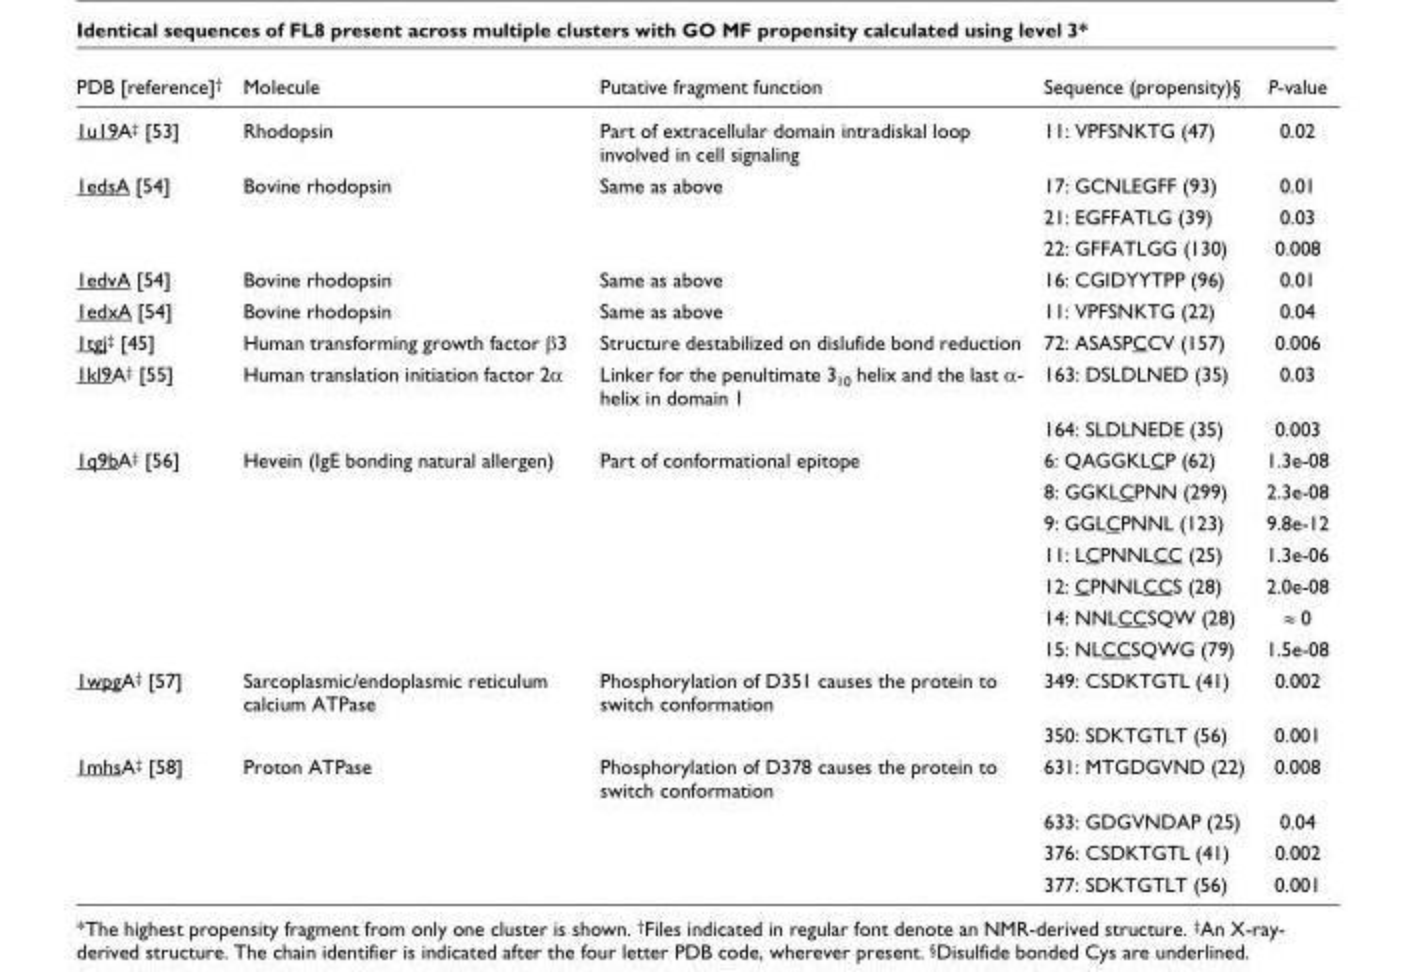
<table><thead><tr><td>PDB [reference]<sup>†</sup></td><td>Molecule</td><td>Putative fragment function</td><td>Sequence (propensity)§</td><td>P-value</td></tr></thead><tbody><tr><td>1u19A<sup>‡</sup> [53]</td><td>Rhodopsin</td><td>Part of extracellular domain intradiskal loop involved in cell signaling</td><td>11: VPFSNKTG (47)</td><td>0.02</td></tr><tr><td rowspan="3">1edsA [54]</td><td>Bovine rhodopsin</td><td>Same as above</td><td>17: GCNLEGFF (93)</td><td>0.01</td></tr><tr><td></td><td></td><td>21: EGFFATLG (39)</td><td>0.03</td></tr><tr><td></td><td></td><td>22: GFFATLGG (130)</td><td>0.008</td></tr><tr><td>1edvA [54]</td><td>Bovine rhodopsin</td><td>Same as above</td><td>16: CGIDYYTPP (96)</td><td>0.01</td></tr><tr><td>1edxA [54]</td><td>Bovine rhodopsin</td><td>Same as above</td><td>11: VPFSNKTG (22)</td><td>0.04</td></tr><tr><td>1tgj<sup>‡</sup> [45]</td><td>Human transforming growth factor β3</td><td>Structure destabilized on dislufide bond reduction</td><td>72: ASASPCCV (157)</td><td>0.006</td></tr><tr><td rowspan="2">1kl9A<sup>‡</sup> [55]</td><td>Human translation initiation factor 2α</td><td>Linker for the penultimate 3<sub>10</sub> helix and the last α- helix in domain 1</td><td>163: DSLDLNED (35)</td><td>0.03</td></tr><tr><td></td><td></td><td>164: SLDLNEDE (35)</td><td>0.003</td></tr><tr><td rowspan="7">1q9bA<sup>‡</sup> [56]</td><td>Hevein (IgE bonding natural allergen)</td><td>Part of conformational epitope</td><td>6: QAGGKLCP (62)</td><td>1.3e-08</td></tr><tr><td></td><td></td><td>8: GGKLCPNN (299)</td><td>2.3e-08</td></tr><tr><td></td><td></td><td>9: GGLCPNNL (123)</td><td>9.8e-12</td></tr><tr><td></td><td></td><td>11: LCPNNLCC (25)</td><td>1.3e-06</td></tr><tr><td></td><td></td><td>12: CPNNLCCS (28)</td><td>2.0e-08</td></tr><tr><td></td><td></td><td>14: NNLCCSQW (28)</td><td>≈ 0</td></tr><tr><td></td><td></td><td>15: NLCCSQWG (79)</td><td>1.5e-08</td></tr><tr><td rowspan="2">1wpgA<sup>‡</sup> [57]</td><td>Sarcoplasmic/endoplasmic reticulum calcium ATPase</td><td>Phosphorylation of D351 causes the protein to switch conformation</td><td>349: CSDKTGTL (41)</td><td>0.002</td></tr><tr><td></td><td></td><td>350: SDKTGTLT (56)</td><td>0.001</td></tr><tr><td rowspan="4">1mhsA<sup>‡</sup> [58]</td><td>Proton ATPase</td><td>Phosphorylation of D378 causes the protein to switch conformation</td><td>631: MTGDGVND (22)</td><td>0.008</td></tr><tr><td></td><td></td><td>633: GDGVNDAP (25)</td><td>0.04</td></tr><tr><td></td><td></td><td>376: CSDKTGTL (41)</td><td>0.002</td></tr><tr><td></td><td></td><td>377: SDKTGTLT (56)</td><td>0.001</td></tr></tbody></table>